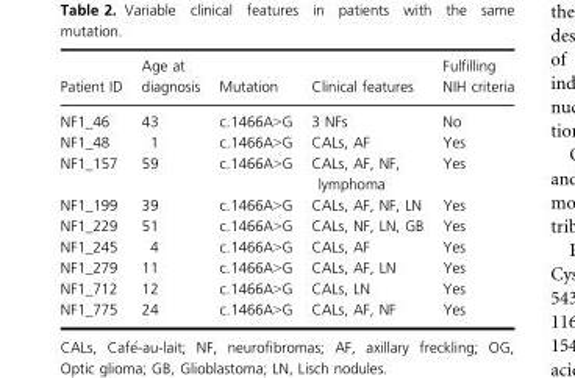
<table><thead><tr><td>Patient ID</td><td>Age at diagnosis</td><td>Mutation</td><td>Clinical features</td><td>Fulfilling NIH criteria</td></tr></thead><tbody><tr><td>NF1_46</td><td>43</td><td>c.1466A&gt;G</td><td>3 NFs</td><td>No</td></tr><tr><td>NF1_48</td><td>1</td><td>c.1466A&gt;G</td><td>CALs, AF</td><td>Yes</td></tr><tr><td>NF1_157</td><td>59</td><td>c.1466A&gt;G</td><td>CALs, AF, NF, lymphoma</td><td>Yes</td></tr><tr><td>NF1_199</td><td>39</td><td>c.1466A&gt;G</td><td>CALs, AF, NF, LN</td><td>Yes</td></tr><tr><td>NF1_229</td><td>51</td><td>c.1466A&gt;G</td><td>CALs, NF, LN, GB</td><td>Yes</td></tr><tr><td>NF1_245</td><td>4</td><td>c.1466A&gt;G</td><td>CALs, AF</td><td>Yes</td></tr><tr><td>NF1_279</td><td>11</td><td>c.1466A&gt;G</td><td>CALs, AF, LN</td><td>Yes</td></tr><tr><td>NF1_712</td><td>12</td><td>c.1466A&gt;G</td><td>CALs, LN</td><td>Yes</td></tr><tr><td>NF1_775</td><td>24</td><td>c.1466A&gt;G</td><td>CALs, AF, NF</td><td>Yes</td></tr></tbody></table>